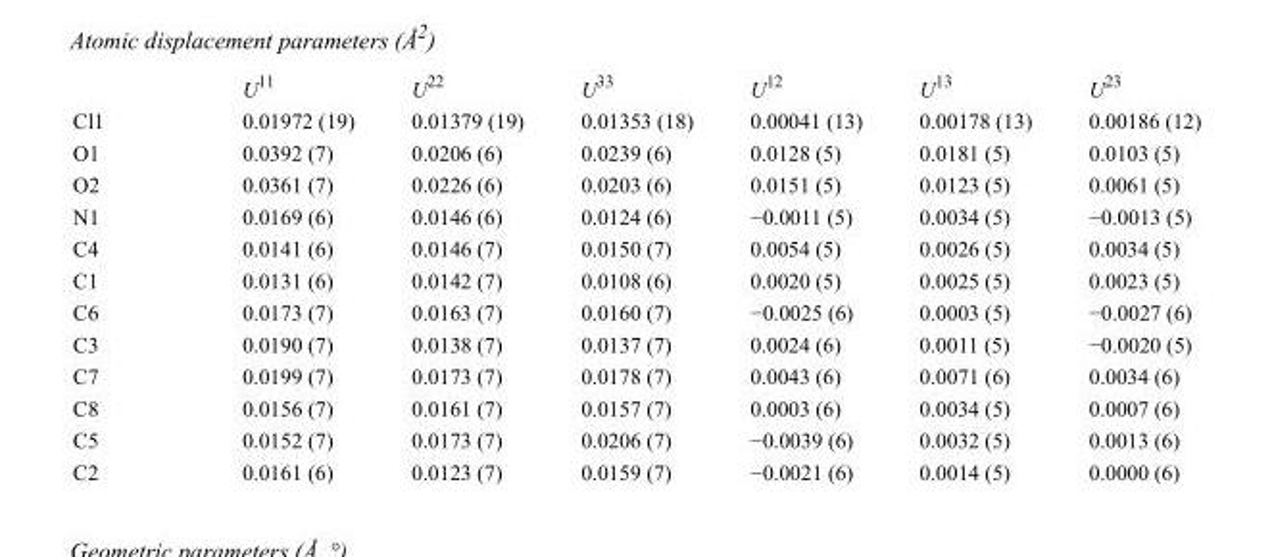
<table><thead><tr><td></td><td>U<sup>11</sup></td><td>U<sup>22</sup></td><td>U<sup>33</sup></td><td>U<sup>12</sup></td><td>U<sup>13</sup></td><td>U<sup>23</sup></td></tr></thead><tbody><tr><td>Cl1</td><td>0.01972 (19)</td><td>0.01379 (19)</td><td>0.01353 (18)</td><td>0.00041 (13)</td><td>0.00178 (13)</td><td>0.00186 (12)</td></tr><tr><td>O1</td><td>0.0392 (7)</td><td>0.0206 (6)</td><td>0.0239 (6)</td><td>0.0128 (5)</td><td>0.0181 (5)</td><td>0.0103 (5)</td></tr><tr><td>O2</td><td>0.0361 (7)</td><td>0.0226 (6)</td><td>0.0203 (6)</td><td>0.0151 (5)</td><td>0.0123 (5)</td><td>0.0061 (5)</td></tr><tr><td>N1</td><td>0.0169 (6)</td><td>0.0146 (6)</td><td>0.0124 (6)</td><td>−0.0011 (5)</td><td>0.0034 (5)</td><td>−0.0013 (5)</td></tr><tr><td>C4</td><td>0.0141 (6)</td><td>0.0146 (7)</td><td>0.0150 (7)</td><td>0.0054 (5)</td><td>0.0026 (5)</td><td>0.0034 (5)</td></tr><tr><td>C1</td><td>0.0131 (6)</td><td>0.0142 (7)</td><td>0.0108 (6)</td><td>0.0020 (5)</td><td>0.0025 (5)</td><td>0.0023 (5)</td></tr><tr><td>C6</td><td>0.0173 (7)</td><td>0.0163 (7)</td><td>0.0160 (7)</td><td>−0.0025 (6)</td><td>0.0003 (5)</td><td>−0.0027 (6)</td></tr><tr><td>C3</td><td>0.0190 (7)</td><td>0.0138 (7)</td><td>0.0137 (7)</td><td>0.0024 (6)</td><td>0.0011 (5)</td><td>−0.0020 (5)</td></tr><tr><td>C7</td><td>0.0199 (7)</td><td>0.0173 (7)</td><td>0.0178 (7)</td><td>0.0043 (6)</td><td>0.0071 (6)</td><td>0.0034 (6)</td></tr><tr><td>C8</td><td>0.0156 (7)</td><td>0.0161 (7)</td><td>0.0157 (7)</td><td>0.0003 (6)</td><td>0.0034 (5)</td><td>0.0007 (6)</td></tr><tr><td>C5</td><td>0.0152 (7)</td><td>0.0173 (7)</td><td>0.0206 (7)</td><td>−0.0039 (6)</td><td>0.0032 (5)</td><td>0.0013 (6)</td></tr><tr><td>C2</td><td>0.0161 (6)</td><td>0.0123 (7)</td><td>0.0159 (7)</td><td>−0.0021 (6)</td><td>0.0014 (5)</td><td>0.0000 (6)</td></tr></tbody></table>